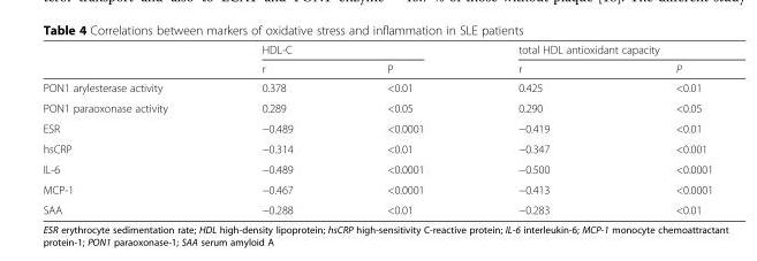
<table><thead><tr><td rowspan="2"></td><td colspan="2">HDL-C</td><td colspan="2">total HDL antioxidant capacity</td></tr><tr><td>r</td><td>P</td><td>r</td><td>P</td></tr></thead><tbody><tr><td>PON1 arylesterase activity</td><td>0.378</td><td>&lt;0.01</td><td>0.425</td><td>&lt;0.01</td></tr><tr><td>PON1 paraoxonase activity</td><td>0.289</td><td>&lt;0.05</td><td>0.290</td><td>&lt;0.05</td></tr><tr><td>ESR</td><td>−0.489</td><td>&lt;0.0001</td><td>−0.419</td><td>&lt;0.01</td></tr><tr><td>hsCRP</td><td>−0.314</td><td>&lt;0.01</td><td>−0.347</td><td>&lt;0.001</td></tr><tr><td>IL-6</td><td>−0.489</td><td>&lt;0.0001</td><td>−0.500</td><td>&lt;0.0001</td></tr><tr><td>MCP-1</td><td>−0.467</td><td>&lt;0.0001</td><td>−0.413</td><td>&lt;0.0001</td></tr><tr><td>SAA</td><td>−0.288</td><td>&lt;0.01</td><td>−0.283</td><td>&lt;0.01</td></tr></tbody></table>